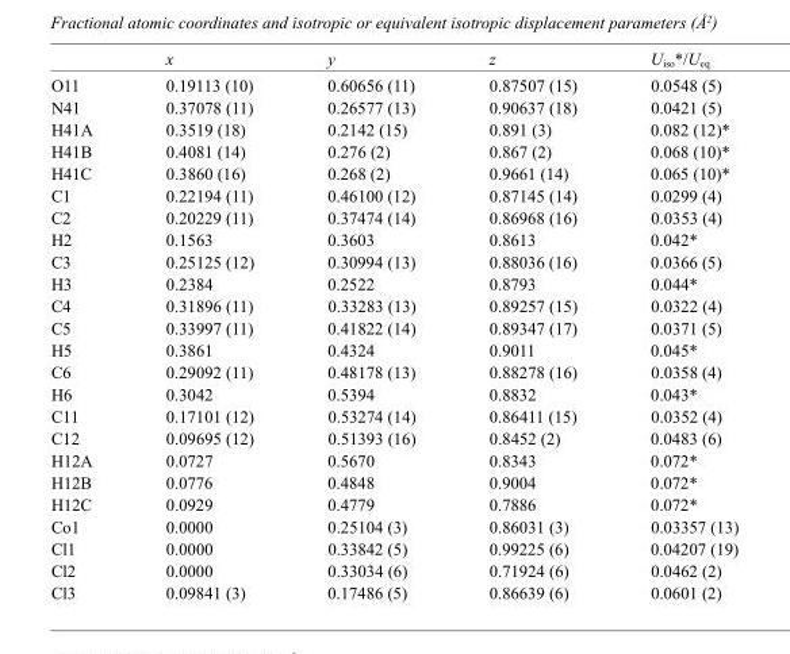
<table><thead><tr><td></td><td>x</td><td>y</td><td>z</td><td>U<sub>iso</sub>*/U<sub>eq</sub></td></tr></thead><tbody><tr><td>O11</td><td>0.19113 (10)</td><td>0.60656 (11)</td><td>0.87507 (15)</td><td>0.0548 (5)</td></tr><tr><td>N41</td><td>0.37078 (11)</td><td>0.26577 (13)</td><td>0.90637 (18)</td><td>0.0421 (5)</td></tr><tr><td>H41A</td><td>0.3519 (18)</td><td>0.2142 (15)</td><td>0.891 (3)</td><td>0.082 (12)*</td></tr><tr><td>H41B</td><td>0.4081 (14)</td><td>0.276 (2)</td><td>0.867 (2)</td><td>0.068 (10)*</td></tr><tr><td>H41C</td><td>0.3860 (16)</td><td>0.268 (2)</td><td>0.9661 (14)</td><td>0.065 (10)*</td></tr><tr><td>C1</td><td>0.22194 (11)</td><td>0.46100 (12)</td><td>0.87145 (14)</td><td>0.0299 (4)</td></tr><tr><td>C2</td><td>0.20229 (11)</td><td>0.37474 (14)</td><td>0.86968 (16)</td><td>0.0353 (4)</td></tr><tr><td>H2</td><td>0.1563</td><td>0.3603</td><td>0.8613</td><td>0.042*</td></tr><tr><td>C3</td><td>0.25125 (12)</td><td>0.30994 (13)</td><td>0.88036 (16)</td><td>0.0366 (5)</td></tr><tr><td>H3</td><td>0.2384</td><td>0.2522</td><td>0.8793</td><td>0.044*</td></tr><tr><td>C4</td><td>0.31896 (11)</td><td>0.33283 (13)</td><td>0.89257 (15)</td><td>0.0322 (4)</td></tr><tr><td>C5</td><td>0.33997 (11)</td><td>0.41822 (14)</td><td>0.89347 (17)</td><td>0.0371 (5)</td></tr><tr><td>H5</td><td>0.3861</td><td>0.4324</td><td>0.9011</td><td>0.045*</td></tr><tr><td>C6</td><td>0.29092 (11)</td><td>0.48178 (13)</td><td>0.88278 (16)</td><td>0.0358 (4)</td></tr><tr><td>H6</td><td>0.3042</td><td>0.5394</td><td>0.8832</td><td>0.043*</td></tr><tr><td>C11</td><td>0.17101 (12)</td><td>0.53274 (14)</td><td>0.86411 (15)</td><td>0.0352 (4)</td></tr><tr><td>C12</td><td>0.09695 (12)</td><td>0.51393 (16)</td><td>0.8452 (2)</td><td>0.0483 (6)</td></tr><tr><td>H12A</td><td>0.0727</td><td>0.5670</td><td>0.8343</td><td>0.072*</td></tr><tr><td>H12B</td><td>0.0776</td><td>0.4848</td><td>0.9004</td><td>0.072*</td></tr><tr><td>H12C</td><td>0.0929</td><td>0.4779</td><td>0.7886</td><td>0.072*</td></tr><tr><td>Co1</td><td>0.0000</td><td>0.25104 (3)</td><td>0.86031 (3)</td><td>0.03357 (13)</td></tr><tr><td>Cl1</td><td>0.0000</td><td>0.33842 (5)</td><td>0.99225 (6)</td><td>0.04207 (19)</td></tr><tr><td>Cl2</td><td>0.0000</td><td>0.33034 (6)</td><td>0.71924 (6)</td><td>0.0462 (2)</td></tr><tr><td>Cl3</td><td>0.09841 (3)</td><td>0.17486 (5)</td><td>0.86639 (6)</td><td>0.0601 (2)</td></tr></tbody></table>